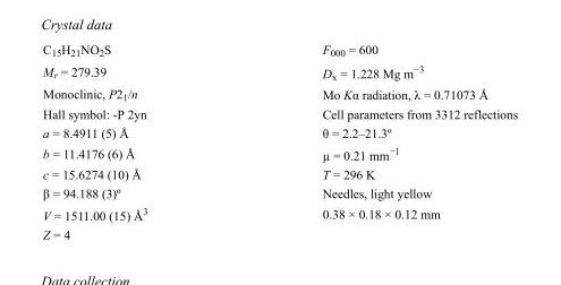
<table><tbody><tr><td>C<sub>15</sub>H<sub>21</sub>NO<sub>2</sub>S</td><td>F000 = 600</td></tr><tr><td>M<sub>r</sub> = 279.39</td><td>D<sub>x</sub> = 1.228 Mg m<sup>−3</sup></td></tr><tr><td>Monoclinic, P2<sub>1</sub>/n</td><td>Mo Kα radiation, λ = 0.71073 Å</td></tr><tr><td>Hall symbol: -P 2yn</td><td>Cell parameters from 3312 reflections</td></tr><tr><td>a = 8.4911 (5) Å</td><td>θ = 2.2–21.3º</td></tr><tr><td>b = 11.4176 (6) Å</td><td>µ = 0.21 mm<sup>−1</sup></td></tr><tr><td>c = 15.6274 (10) Å</td><td>T = 296 K</td></tr><tr><td>β = 94.188 (3)º</td><td>Needles, light yellow</td></tr><tr><td>V = 1511.00 (15) Å<sup>3</sup></td><td>0.38 × 0.18 × 0.12 mm</td></tr><tr><td>Z = 4</td><td></td></tr></tbody></table>